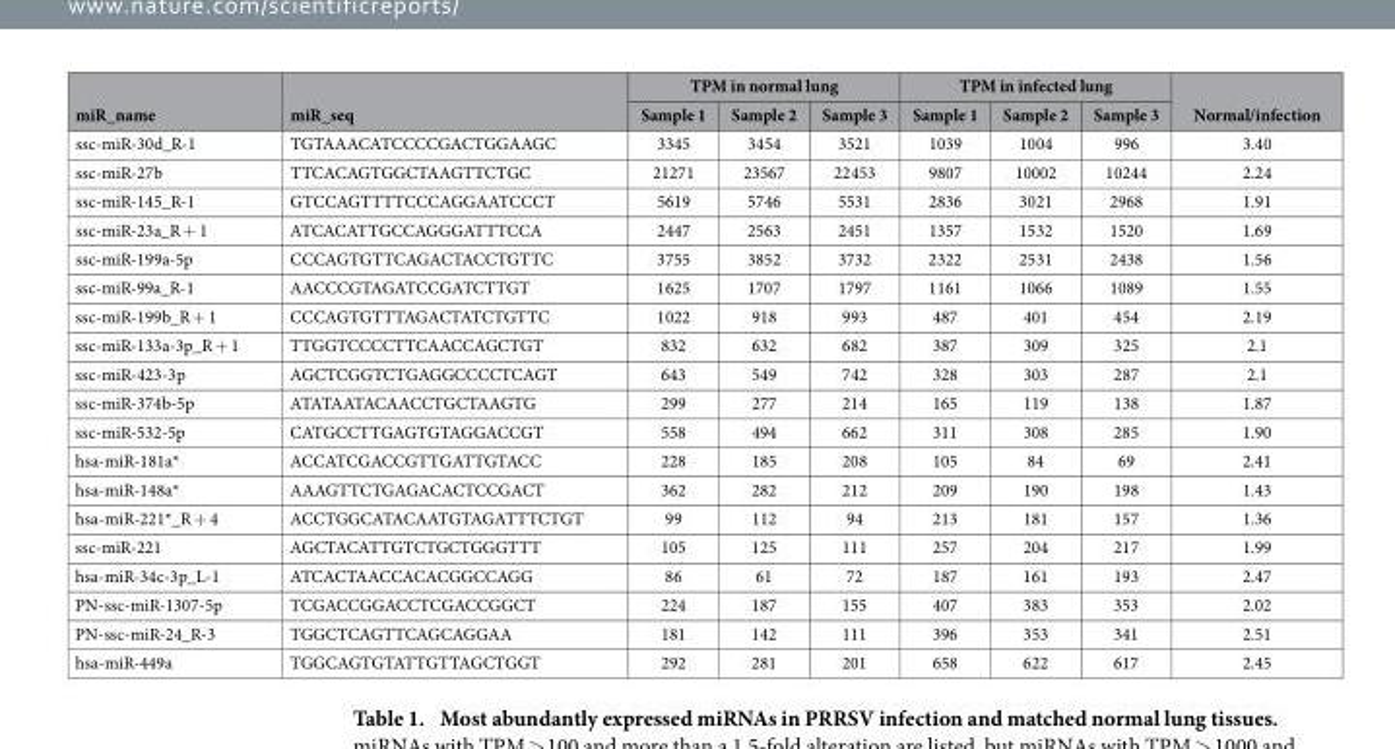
<table><thead><tr><td rowspan="2">miR_name</td><td rowspan="2">miR_seq</td><td colspan="3">TPM in normal lung</td><td colspan="3">TPM in infected lung</td><td rowspan="2">Normal/infection</td></tr><tr><td>Sample 1</td><td>Sample 2</td><td>Sample 3</td><td>Sample 1</td><td>Sample 2</td><td>Sample 3</td></tr></thead><tbody><tr><td>ssc-miR-30d_R-1</td><td>TGTAAACATCCCCGACTGGAAGC</td><td>3345</td><td>3454</td><td>3521</td><td>1039</td><td>1004</td><td>996</td><td>3.40</td></tr><tr><td>ssc-miR-27b</td><td>TTCACAGTGGCTAAGTTCTGC</td><td>21271</td><td>23567</td><td>22453</td><td>9807</td><td>10002</td><td>10244</td><td>2.24</td></tr><tr><td>ssc-miR-145_R-1</td><td>GTCCAGTTTTCCCAGGAATCCCT</td><td>5619</td><td>5746</td><td>5531</td><td>2836</td><td>3021</td><td>2968</td><td>1.91</td></tr><tr><td>ssc-miR-23a_R + 1</td><td>ATCACATTGCCAGGGATTTCCA</td><td>2447</td><td>2563</td><td>2451</td><td>1357</td><td>1532</td><td>1520</td><td>1.69</td></tr><tr><td>ssc-miR-199a-5p</td><td>CCCAGTGTTCAGACTACCTGTTC</td><td>3755</td><td>3852</td><td>3732</td><td>2322</td><td>2531</td><td>2438</td><td>1.56</td></tr><tr><td>ssc-miR-99a_R-1</td><td>AACCCGTAGATCCGATCTTGT</td><td>1625</td><td>1707</td><td>1797</td><td>1161</td><td>1066</td><td>1089</td><td>1.55</td></tr><tr><td>ssc-miR-199b_R + 1</td><td>CCCAGTGTTTAGACTATCTGTTC</td><td>1022</td><td>918</td><td>993</td><td>487</td><td>401</td><td>454</td><td>2.19</td></tr><tr><td>ssc-miR-133a-3p_R + 1</td><td>TTGGTCCCCTTCAACCAGCTGT</td><td>832</td><td>632</td><td>682</td><td>387</td><td>309</td><td>325</td><td>2.1</td></tr><tr><td>ssc-miR-423-3p</td><td>AGCTCGGTCTGAGGCCCCTCAGT</td><td>643</td><td>549</td><td>742</td><td>328</td><td>303</td><td>287</td><td>2.1</td></tr><tr><td>ssc-miR-374b-5p</td><td>ATATAATACAACCTGCTAAGTG</td><td>299</td><td>277</td><td>214</td><td>165</td><td>119</td><td>138</td><td>1.87</td></tr><tr><td>ssc-miR-532-5p</td><td>CATGCCTTGAGTGTAGGACCGT</td><td>558</td><td>494</td><td>662</td><td>311</td><td>308</td><td>285</td><td>1.90</td></tr><tr><td>hsa-miR-181a*</td><td>ACCATCGACCGTTGATTGTACC</td><td>228</td><td>185</td><td>208</td><td>105</td><td>84</td><td>69</td><td>2.41</td></tr><tr><td>hsa-miR-148a*</td><td>AAAGTTCTGAGACACTCCGACT</td><td>362</td><td>282</td><td>212</td><td>209</td><td>190</td><td>198</td><td>1.43</td></tr><tr><td>hsa-miR-221*_R + 4</td><td>ACCTGGCATACAATGTAGATTTCTGT</td><td>99</td><td>112</td><td>94</td><td>213</td><td>181</td><td>157</td><td>1.36</td></tr><tr><td>ssc-miR-221</td><td>AGCTACATTGTCTGCTGGGTTT</td><td>105</td><td>125</td><td>111</td><td>257</td><td>204</td><td>217</td><td>1.99</td></tr><tr><td>hsa-miR-34c-3p_L-1</td><td>ATCACTAACCACACGGCCAGG</td><td>86</td><td>61</td><td>72</td><td>187</td><td>161</td><td>193</td><td>2.47</td></tr><tr><td>PN-ssc-miR-1307-5p</td><td>TCGACCGGACCTCGACCGGCT</td><td>224</td><td>187</td><td>155</td><td>407</td><td>383</td><td>353</td><td>2.02</td></tr><tr><td>PN-ssc-miR-24_R-3</td><td>TGGCTCAGTTCAGCAGGAA</td><td>181</td><td>142</td><td>111</td><td>396</td><td>353</td><td>341</td><td>2.51</td></tr><tr><td>hsa-miR-449a</td><td>TGGCAGTGTATTGTTAGCTGGT</td><td>292</td><td>281</td><td>201</td><td>658</td><td>622</td><td>617</td><td>2.45</td></tr></tbody></table>